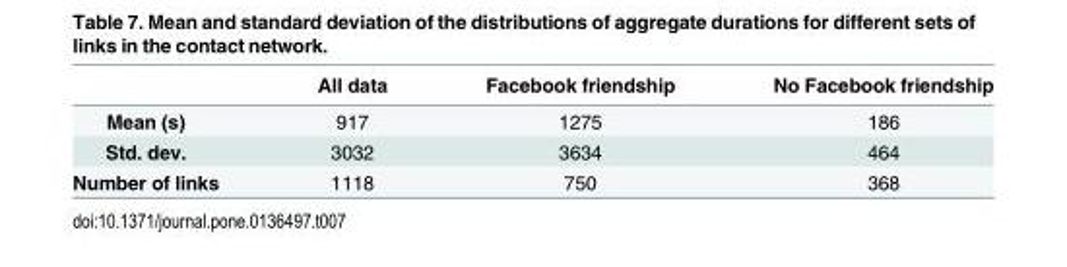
<table><thead><tr><td></td><td>All data</td><td>Facebook friendship</td><td>No Facebook friendship</td></tr></thead><tbody><tr><td>Mean (s)</td><td>917</td><td>1275</td><td>186</td></tr><tr><td>Std. dev.</td><td>3032</td><td>3634</td><td>464</td></tr><tr><td>Number of links</td><td>1118</td><td>750</td><td>368</td></tr></tbody></table>